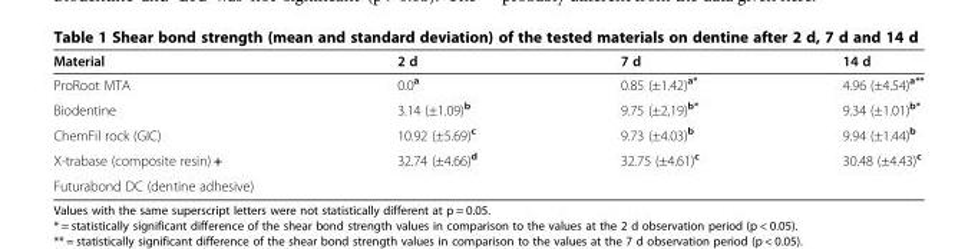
<table><thead><tr><td>Material</td><td>2 d</td><td>7 d</td><td>14 d</td></tr></thead><tbody><tr><td>ProRoot MTA</td><td>0.0<sup>a</sup></td><td>0.85 (±1.42)<sup>a*</sup></td><td>4.96 (±4.54)<sup>a**</sup></td></tr><tr><td>Biodentine</td><td>3.14 (±1.09)<sup>b</sup></td><td>9.75 (±2,19)<sup>b*</sup></td><td>9.34 (±1.01)<sup>b*</sup></td></tr><tr><td>ChemFil rock (GIC)</td><td>10.92 (±5.69)<sup>c</sup></td><td>9.73 (±4.03)<sup>b</sup></td><td>9.94 (±1.44)<sup>b</sup></td></tr><tr><td>X-trabase (composite resin) +</td><td rowspan="2">32.74 (±4.66)<sup>d</sup></td><td rowspan="2">32.75 (±4.61)<sup>c</sup></td><td rowspan="2">30.48 (±4.43)<sup>c</sup></td></tr><tr><td>Futurabond DC (dentine adhesive)</td></tr></tbody></table>